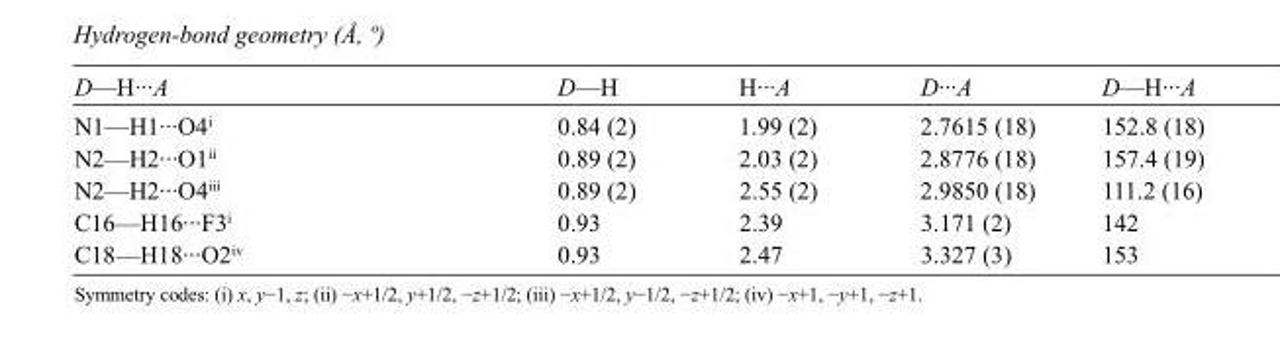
<table><tbody><tr><td>D—H···A</td><td>D—H</td><td>H···A</td><td>D···A</td><td>D—H···A</td></tr><tr><td>N1—H1···O4<sup>i</sup></td><td>0.84 (2)</td><td>1.99 (2)</td><td>2.7615 (18)</td><td>152.8 (18)</td></tr><tr><td>N2—H2···O1<sup>ii</sup></td><td>0.89 (2)</td><td>2.03 (2)</td><td>2.8776 (18)</td><td>157.4 (19)</td></tr><tr><td>N2—H2···O4<sup>iii</sup></td><td>0.89 (2)</td><td>2.55 (2)</td><td>2.9850 (18)</td><td>111.2 (16)</td></tr><tr><td>C16—H16···F3<sup>i</sup></td><td>0.93</td><td>2.39</td><td>3.171 (2)</td><td>142</td></tr><tr><td>C18—H18···O2<sup>iv</sup></td><td>0.93</td><td>2.47</td><td>3.327 (3)</td><td>153</td></tr></tbody></table>